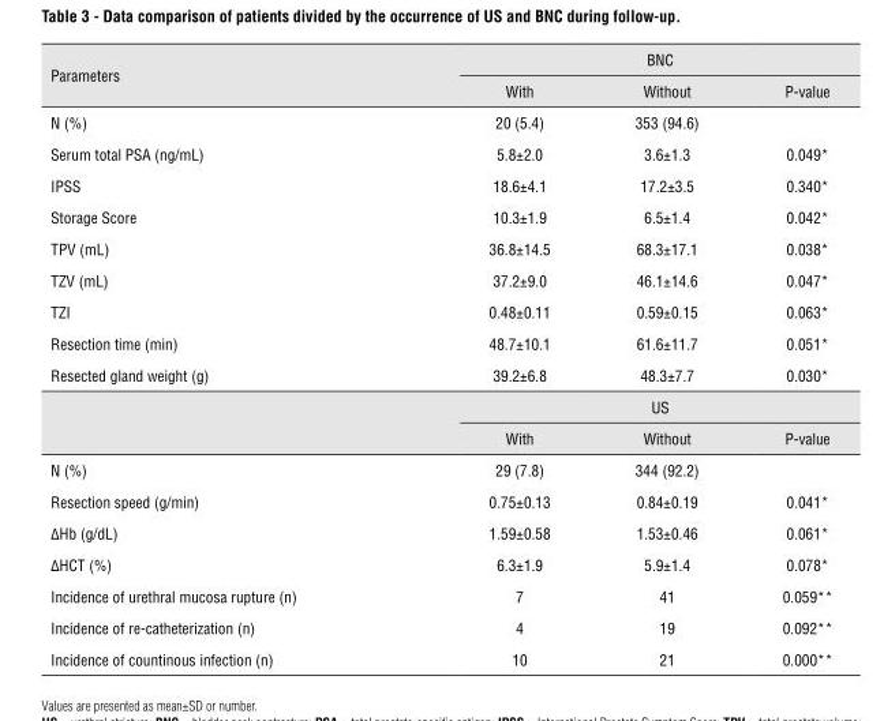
<table><thead><tr><td rowspan="2">Parameters</td><td colspan="3">BNC</td></tr><tr><td>With</td><td>Without</td><td>P-value</td></tr></thead><tbody><tr><td>N (%)</td><td>20 (5.4)</td><td>353 (94.6)</td><td></td></tr><tr><td>Serum total PSA (ng/mL)</td><td>5.8±2.0</td><td>3.6±1.3</td><td>0.049*</td></tr><tr><td>IPSS</td><td>18.6±4.1</td><td>17.2±3.5</td><td>0.340*</td></tr><tr><td>Storage Score</td><td>10.3±1.9</td><td>6.5±1.4</td><td>0.042*</td></tr><tr><td>TPV (mL)</td><td>36.8±14.5</td><td>68.3±17.1</td><td>0.038*</td></tr><tr><td>TZV (mL)</td><td>37.2±9.0</td><td>46.1±14.6</td><td>0.047*</td></tr><tr><td>TZI</td><td>0.48±0.11</td><td>0.59±0.15</td><td>0.063*</td></tr><tr><td>Resection time (min)</td><td>48.7±10.1</td><td>61.6±11.7</td><td>0.051*</td></tr><tr><td rowspan="3">Resected gland weight (g)</td><td>39.2±6.8</td><td>48.3±7.7</td><td>0.030*</td></tr><tr><td colspan="3">US</td></tr><tr><td>With</td><td>Without</td><td>P-value</td></tr><tr><td>N (%)</td><td>29 (7.8)</td><td>344 (92.2)</td><td></td></tr><tr><td>Resection speed (g/min)</td><td>0.75±0.13</td><td>0.84±0.19</td><td>0.041*</td></tr><tr><td>ΔHb (g/dL)</td><td>1.59±0.58</td><td>1.53±0.46</td><td>0.061*</td></tr><tr><td>ΔHCT (%)</td><td>6.3±1.9</td><td>5.9±1.4</td><td>0.078*</td></tr><tr><td>Incidence of urethral mucosa rupture (n)</td><td>7</td><td>41</td><td>0.059**</td></tr><tr><td>Incidence of re-catheterization (n)</td><td>4</td><td>19</td><td>0.092**</td></tr><tr><td>Incidence of countinous infection (n)</td><td>10</td><td>21</td><td>0.000**</td></tr></tbody></table>